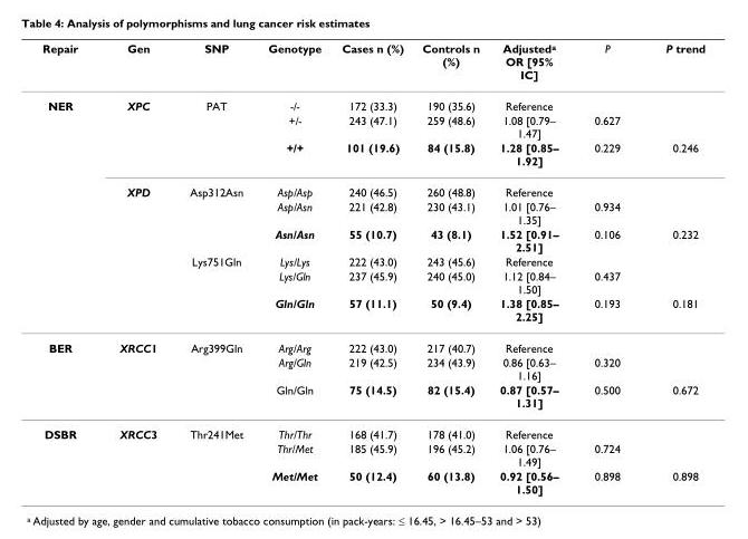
<table><thead><tr><td>Repair</td><td>Gen</td><td>SNP</td><td>Genotype</td><td>Cases n (%)</td><td>Controls n (%)</td><td>Adjusted<sup>a</sup> OR [95% IC]</td><td>P</td><td>P trend</td></tr></thead><tbody><tr><td rowspan="9">NER</td><td>XPC</td><td>PAT</td><td>-/-</td><td>172 (33.3)</td><td>190 (35.6)</td><td>Reference</td><td></td><td></td></tr><tr><td></td><td></td><td>+/-</td><td>243 (47.1)</td><td>259 (48.6)</td><td>1.08 [0.79– 1.47]</td><td>0.627</td><td></td></tr><tr><td></td><td></td><td>+/+</td><td>101 (19.6)</td><td>84 (15.8)</td><td>1.28 [0.85– 1.92]</td><td>0.229</td><td>0.246</td></tr><tr><td>XPD</td><td>Asp312Asn</td><td>Asp/Asp</td><td>240 (46.5)</td><td>260 (48.8)</td><td>Reference</td><td></td><td></td></tr><tr><td></td><td></td><td>Asp/Asn</td><td>221 (42.8)</td><td>230 (43.1)</td><td>1.01 [0.76– 1.35]</td><td>0.934</td><td></td></tr><tr><td></td><td></td><td>Asn/Asn</td><td>55 (10.7)</td><td>43 (8.1)</td><td>1.52 [0.91– 2.51]</td><td>0.106</td><td>0.232</td></tr><tr><td></td><td>Lys751Gln</td><td>Lys/Lys</td><td>222 (43.0)</td><td>243 (45.6)</td><td>Reference</td><td></td><td></td></tr><tr><td></td><td></td><td>Lys/Gln</td><td>237 (45.9)</td><td>240 (45.0)</td><td>1.12 [0.84– 1.50]</td><td>0.437</td><td></td></tr><tr><td></td><td></td><td>Gln/Gln</td><td>57 (11.1)</td><td>50 (9.4)</td><td>1.38 [0.85– 2.25]</td><td>0.193</td><td>0.181</td></tr><tr><td rowspan="3">BER</td><td>XRCC1</td><td>Arg399Gln</td><td>Arg/Arg</td><td>222 (43.0)</td><td>217 (40.7)</td><td>Reference</td><td></td><td></td></tr><tr><td></td><td></td><td>Arg/Gln</td><td>219 (42.5)</td><td>234 (43.9)</td><td>0.86 [0.63– 1.16]</td><td>0.320</td><td></td></tr><tr><td></td><td></td><td>Gln/Gln</td><td>75 (14.5)</td><td>82 (15.4)</td><td>0.87 [0.57– 1.31]</td><td>0.500</td><td>0.672</td></tr><tr><td rowspan="3">DSBR</td><td>XRCC3</td><td>Thr241Met</td><td>Thr/Thr</td><td>168 (41.7)</td><td>178 (41.0)</td><td>Reference</td><td></td><td></td></tr><tr><td></td><td></td><td>Thr/Met</td><td>185 (45.9)</td><td>196 (45.2)</td><td>1.06 [0.76– 1.49]</td><td>0.724</td><td></td></tr><tr><td></td><td></td><td>Met/Met</td><td>50 (12.4)</td><td>60 (13.8)</td><td>0.92 [0.56– 1.50]</td><td>0.898</td><td>0.898</td></tr></tbody></table>